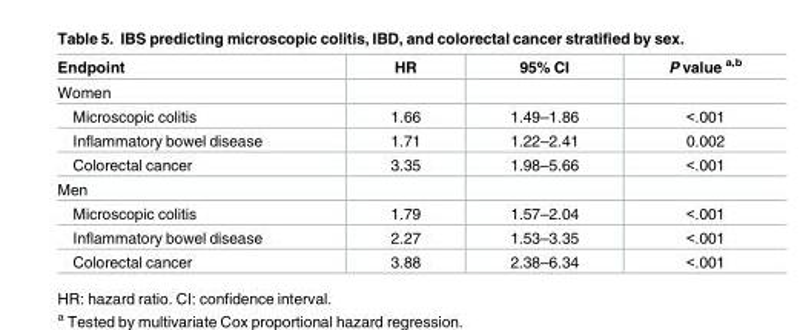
<table><thead><tr><td>Endpoint</td><td>HR</td><td>95% CI</td><td>P value <sup>a,b</sup></td></tr></thead><tbody><tr><td colspan="4">Women</td></tr><tr><td>Microscopic colitis</td><td>1.66</td><td>1.49–1.86</td><td>&lt;.001</td></tr><tr><td>Inflammatory bowel disease</td><td>1.71</td><td>1.22–2.41</td><td>0.002</td></tr><tr><td>Colorectal cancer</td><td>3.35</td><td>1.98–5.66</td><td>&lt;.001</td></tr><tr><td colspan="4">Men</td></tr><tr><td>Microscopic colitis</td><td>1.79</td><td>1.57–2.04</td><td>&lt;.001</td></tr><tr><td>Inflammatory bowel disease</td><td>2.27</td><td>1.53–3.35</td><td>&lt;.001</td></tr><tr><td>Colorectal cancer</td><td>3.88</td><td>2.38–6.34</td><td>&lt;.001</td></tr></tbody></table>